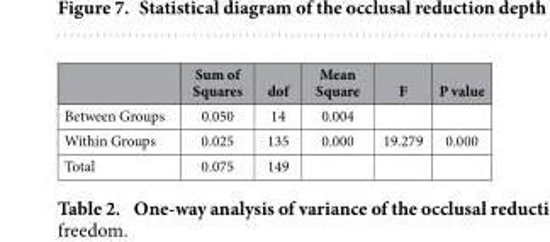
<table><thead><tr><td></td><td>Sum of Squares</td><td>dof</td><td>Mean Square</td><td>F</td><td>P value</td></tr></thead><tbody><tr><td>Between Groups</td><td>0.050</td><td>14</td><td>0.004</td><td></td><td></td></tr><tr><td>Within Groups</td><td>0.025</td><td>135</td><td>0.000</td><td>19.279</td><td>0.000</td></tr><tr><td>Total</td><td>0.075</td><td>149</td><td></td><td></td><td></td></tr></tbody></table>